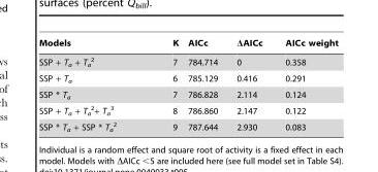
<table><thead><tr><td>Models</td><td>K</td><td>AICc</td><td>ΔAICc</td><td>AICc weight</td></tr></thead><tbody><tr><td>SSP + T<sub>a</sub> + T<sub>a</sub> <sup>2</sup></td><td>7</td><td>784.714</td><td>0</td><td>0.358</td></tr><tr><td>SSP + T<sub>a</sub></td><td>6</td><td>785.129</td><td>0.416</td><td>0.291</td></tr><tr><td>SSP * T<sub>a</sub></td><td>7</td><td>786.828</td><td>2.114</td><td>0.124</td></tr><tr><td>SSP + T<sub>a</sub> + T<sub>a</sub> <sup>2</sup>+ T<sub>a</sub> <sup>3</sup></td><td>8</td><td>786.860</td><td>2.147</td><td>0.122</td></tr><tr><td>SSP * T<sub>a</sub> + SSP * T<sub>a</sub> <sup>2</sup></td><td>9</td><td>787.644</td><td>2.930</td><td>0.083</td></tr></tbody></table>